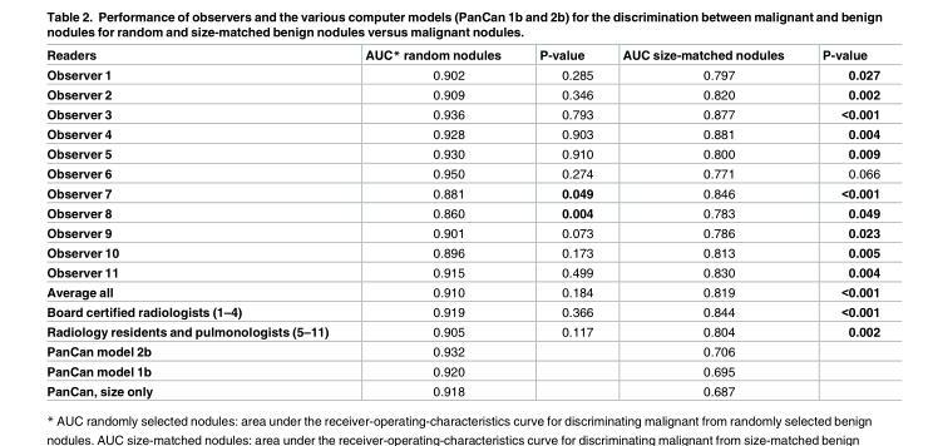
<table><thead><tr><td>Readers</td><td>AUC* random nodules</td><td>P-value</td><td>AUC size-matched nodules</td><td>P-value</td></tr></thead><tbody><tr><td>Observer 1</td><td>0.902</td><td>0.285</td><td>0.797</td><td>0.027</td></tr><tr><td>Observer 2</td><td>0.909</td><td>0.346</td><td>0.820</td><td>0.002</td></tr><tr><td>Observer 3</td><td>0.936</td><td>0.793</td><td>0.877</td><td>&lt;0.001</td></tr><tr><td>Observer 4</td><td>0.928</td><td>0.903</td><td>0.881</td><td>0.004</td></tr><tr><td>Observer 5</td><td>0.930</td><td>0.910</td><td>0.800</td><td>0.009</td></tr><tr><td>Observer 6</td><td>0.950</td><td>0.274</td><td>0.771</td><td>0.066</td></tr><tr><td>Observer 7</td><td>0.881</td><td>0.049</td><td>0.846</td><td>&lt;0.001</td></tr><tr><td>Observer 8</td><td>0.860</td><td>0.004</td><td>0.783</td><td>0.049</td></tr><tr><td>Observer 9</td><td>0.901</td><td>0.073</td><td>0.786</td><td>0.023</td></tr><tr><td>Observer 10</td><td>0.896</td><td>0.173</td><td>0.813</td><td>0.005</td></tr><tr><td>Observer 11</td><td>0.915</td><td>0.499</td><td>0.830</td><td>0.004</td></tr><tr><td>Average all</td><td>0.910</td><td>0.184</td><td>0.819</td><td>&lt;0.001</td></tr><tr><td>Board certified radiologists (1–4)</td><td>0.919</td><td>0.366</td><td>0.844</td><td>&lt;0.001</td></tr><tr><td>Radiology residents and pulmonologists (5–11)</td><td>0.905</td><td>0.117</td><td>0.804</td><td>0.002</td></tr><tr><td>PanCan model 2b</td><td>0.932</td><td></td><td>0.706</td><td></td></tr><tr><td>PanCan model 1b</td><td>0.920</td><td></td><td>0.695</td><td></td></tr><tr><td>PanCan, size only</td><td>0.918</td><td></td><td>0.687</td><td></td></tr></tbody></table>